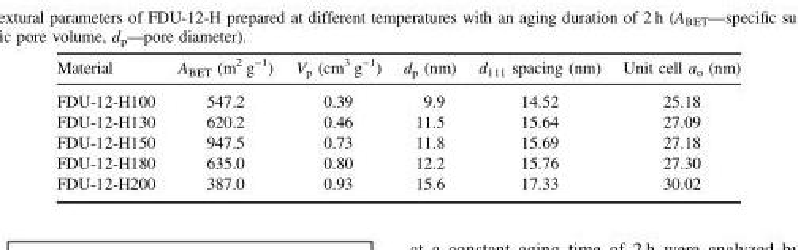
<table><thead><tr><td>Material</td><td>A<sub>BET</sub> (m<sup>2</sup> g<sup>−1</sup>)</td><td>V<sub>p</sub> (cm<sup>3</sup> g<sup>−1</sup>)</td><td>d<sub>p</sub> (nm)</td><td>d<sub>111</sub> spacing (nm)</td><td>Unit cell a<sub>o</sub> (nm)</td></tr></thead><tbody><tr><td>FDU-12-H100</td><td>547.2</td><td>0.39</td><td>9.9</td><td>14.52</td><td>25.18</td></tr><tr><td>FDU-12-H130</td><td>620.2</td><td>0.46</td><td>11.5</td><td>15.64</td><td>27.09</td></tr><tr><td>FDU-12-H150</td><td>947.5</td><td>0.73</td><td>11.8</td><td>15.69</td><td>27.18</td></tr><tr><td>FDU-12-H180</td><td>635.0</td><td>0.80</td><td>12.2</td><td>15.76</td><td>27.30</td></tr><tr><td>FDU-12-H200</td><td>387.0</td><td>0.93</td><td>15.6</td><td>17.33</td><td>30.02</td></tr></tbody></table>